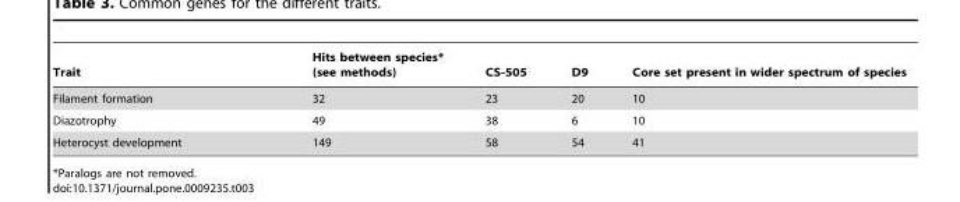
<table><thead><tr><td>Trait</td><td>Hits between species* (see methods)</td><td>CS-505</td><td>D9</td><td>Core set present in wider spectrum of species</td></tr></thead><tbody><tr><td>Filament formation</td><td>32</td><td>23</td><td>20</td><td>10</td></tr><tr><td>Diazotrophy</td><td>49</td><td>38</td><td>6</td><td>10</td></tr><tr><td>Heterocyst development</td><td>149</td><td>58</td><td>54</td><td>41</td></tr></tbody></table>